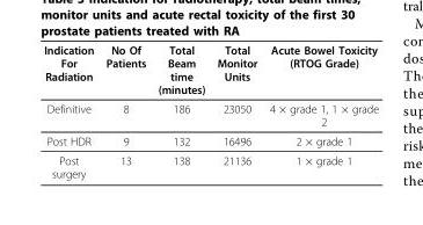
<table><thead><tr><td>Indication For Radiation</td><td>No Of Patients</td><td>Total Beam time (minutes)</td><td>Total Monitor Units</td><td>Acute Bowel Toxicity (RTOG Grade)</td></tr></thead><tbody><tr><td>Definitive</td><td>8</td><td>186</td><td>23050</td><td>4 × grade 1, 1 × grade 2</td></tr><tr><td>Post HDR</td><td>9</td><td>132</td><td>16496</td><td>2 × grade 1</td></tr><tr><td>Post surgery</td><td>13</td><td>138</td><td>21136</td><td>1 × grade 1</td></tr></tbody></table>